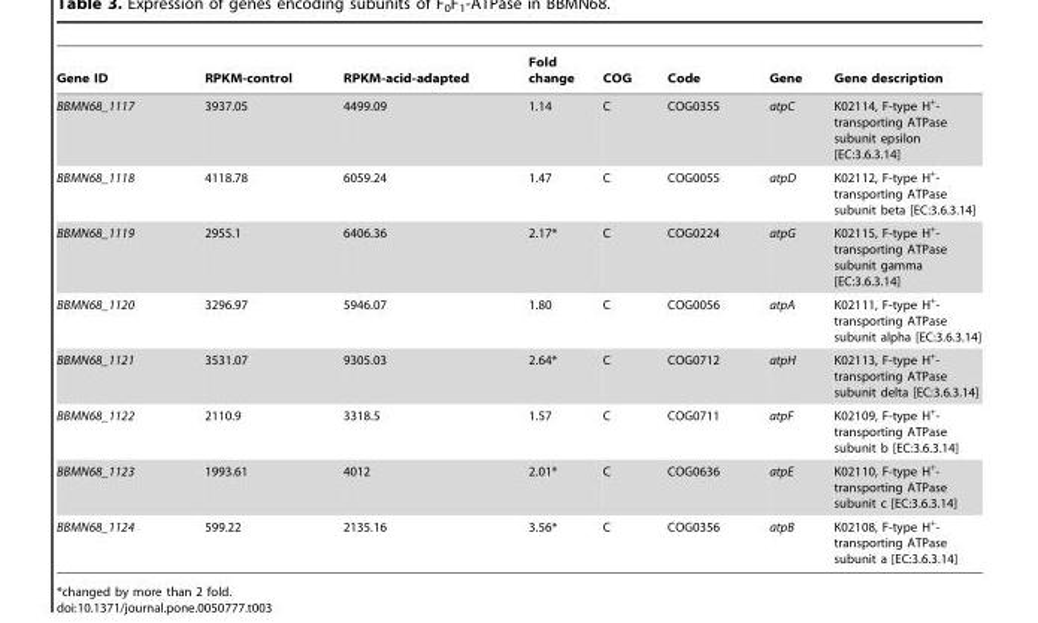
<table><thead><tr><td>Gene ID</td><td>RPKM-control</td><td>RPKM-acid-adapted</td><td>Fold change</td><td>COG</td><td>Code</td><td>Gene</td><td>Gene description</td></tr></thead><tbody><tr><td>BBMN68_1117</td><td>3937.05</td><td>4499.09</td><td>1.14</td><td>C</td><td>COG0355</td><td>atpC</td><td>K02114, F-type H<sup>+</sup>- transporting ATPase subunit epsilon [EC:3.6.3.14]</td></tr><tr><td>BBMN68_1118</td><td>4118.78</td><td>6059.24</td><td>1.47</td><td>C</td><td>COG0055</td><td>atpD</td><td>K02112, F-type H<sup>+</sup>- transporting ATPase subunit beta [EC:3.6.3.14]</td></tr><tr><td>BBMN68_1119</td><td>2955.1</td><td>6406.36</td><td>2.17*</td><td>C</td><td>COG0224</td><td>atpG</td><td>K02115, F-type H<sup>+</sup>- transporting ATPase subunit gamma [EC:3.6.3.14]</td></tr><tr><td>BBMN68_1120</td><td>3296.97</td><td>5946.07</td><td>1.80</td><td>C</td><td>COG0056</td><td>atpA</td><td>K02111, F-type H<sup>+</sup>- transporting ATPase subunit alpha [EC:3.6.3.14]</td></tr><tr><td>BBMN68_1121</td><td>3531.07</td><td>9305.03</td><td>2.64*</td><td>C</td><td>COG0712</td><td>atpH</td><td>K02113, F-type H<sup>+</sup>- transporting ATPase subunit delta [EC:3.6.3.14]</td></tr><tr><td>BBMN68_1122</td><td>2110.9</td><td>3318.5</td><td>1.57</td><td>C</td><td>COG0711</td><td>atpF</td><td>K02109, F-type H<sup>+</sup>- transporting ATPase subunit b [EC:3.6.3.14]</td></tr><tr><td>BBMN68_1123</td><td>1993.61</td><td>4012</td><td>2.01*</td><td>C</td><td>COG0636</td><td>atpE</td><td>K02110, F-type H<sup>+</sup>- transporting ATPase subunit c [EC:3.6.3.14]</td></tr><tr><td>BBMN68_1124</td><td>599.22</td><td>2135.16</td><td>3.56*</td><td>C</td><td>COG0356</td><td>atpB</td><td>K02108, F-type H<sup>+</sup>- transporting ATPase subunit a [EC:3.6.3.14]</td></tr></tbody></table>